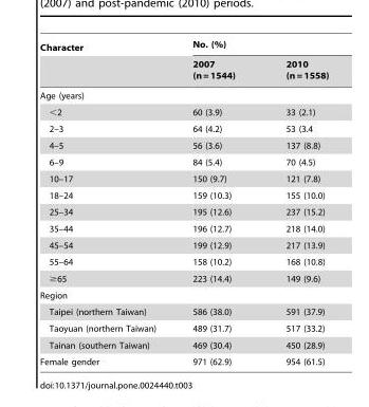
<table><thead><tr><td rowspan="2">Character</td><td colspan="2">No. (%)</td></tr><tr><td>2007 (n = 1544)</td><td>2010 (n = 1558)</td></tr></thead><tbody><tr><td colspan="3">Age (years)</td></tr><tr><td>&lt;2</td><td>60 (3.9)</td><td>33 (2.1)</td></tr><tr><td>2–3</td><td>64 (4.2)</td><td>53 (3.4</td></tr><tr><td>4–5</td><td>56 (3.6)</td><td>137 (8.8)</td></tr><tr><td>6–9</td><td>84 (5.4)</td><td>70 (4.5)</td></tr><tr><td>10–17</td><td>150 (9.7)</td><td>121 (7.8)</td></tr><tr><td>18–24</td><td>159 (10.3)</td><td>155 (10.0)</td></tr><tr><td>25–34</td><td>195 (12.6)</td><td>237 (15.2)</td></tr><tr><td>35–44</td><td>196 (12.7)</td><td>218 (14.0)</td></tr><tr><td>45–54</td><td>199 (12.9)</td><td>217 (13.9)</td></tr><tr><td>55–64</td><td>158 (10.2)</td><td>168 (10.8)</td></tr><tr><td>≥65</td><td>223 (14.4)</td><td>149 (9.6)</td></tr><tr><td colspan="3">Region</td></tr><tr><td>Taipei (northern Taiwan)</td><td>586 (38.0)</td><td>591 (37.9)</td></tr><tr><td>Taoyuan (northern Taiwan)</td><td>489 (31.7)</td><td>517 (33.2)</td></tr><tr><td>Tainan (southern Taiwan)</td><td>469 (30.4)</td><td>450 (28.9)</td></tr><tr><td>Female gender</td><td>971 (62.9)</td><td>954 (61.5)</td></tr></tbody></table>